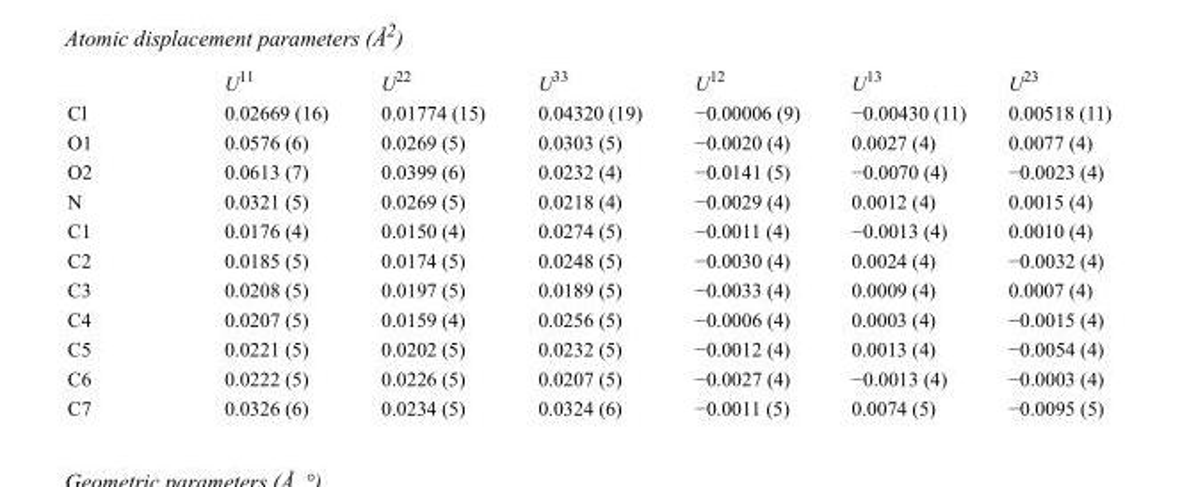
<table><thead><tr><td></td><td>U<sup>11</sup></td><td>U<sup>22</sup></td><td>U<sup>33</sup></td><td>U<sup>12</sup></td><td>U<sup>13</sup></td><td>U<sup>23</sup></td></tr></thead><tbody><tr><td>Cl</td><td>0.02669 (16)</td><td>0.01774 (15)</td><td>0.04320 (19)</td><td>−0.00006 (9)</td><td>−0.00430 (11)</td><td>0.00518 (11)</td></tr><tr><td>O1</td><td>0.0576 (6)</td><td>0.0269 (5)</td><td>0.0303 (5)</td><td>−0.0020 (4)</td><td>0.0027 (4)</td><td>0.0077 (4)</td></tr><tr><td>O2</td><td>0.0613 (7)</td><td>0.0399 (6)</td><td>0.0232 (4)</td><td>−0.0141 (5)</td><td>−0.0070 (4)</td><td>−0.0023 (4)</td></tr><tr><td>N</td><td>0.0321 (5)</td><td>0.0269 (5)</td><td>0.0218 (4)</td><td>−0.0029 (4)</td><td>0.0012 (4)</td><td>0.0015 (4)</td></tr><tr><td>C1</td><td>0.0176 (4)</td><td>0.0150 (4)</td><td>0.0274 (5)</td><td>−0.0011 (4)</td><td>−0.0013 (4)</td><td>0.0010 (4)</td></tr><tr><td>C2</td><td>0.0185 (5)</td><td>0.0174 (5)</td><td>0.0248 (5)</td><td>−0.0030 (4)</td><td>0.0024 (4)</td><td>−0.0032 (4)</td></tr><tr><td>C3</td><td>0.0208 (5)</td><td>0.0197 (5)</td><td>0.0189 (5)</td><td>−0.0033 (4)</td><td>0.0009 (4)</td><td>0.0007 (4)</td></tr><tr><td>C4</td><td>0.0207 (5)</td><td>0.0159 (4)</td><td>0.0256 (5)</td><td>−0.0006 (4)</td><td>0.0003 (4)</td><td>−0.0015 (4)</td></tr><tr><td>C5</td><td>0.0221 (5)</td><td>0.0202 (5)</td><td>0.0232 (5)</td><td>−0.0012 (4)</td><td>0.0013 (4)</td><td>−0.0054 (4)</td></tr><tr><td>C6</td><td>0.0222 (5)</td><td>0.0226 (5)</td><td>0.0207 (5)</td><td>−0.0027 (4)</td><td>−0.0013 (4)</td><td>−0.0003 (4)</td></tr><tr><td>C7</td><td>0.0326 (6)</td><td>0.0234 (5)</td><td>0.0324 (6)</td><td>−0.0011 (5)</td><td>0.0074 (5)</td><td>−0.0095 (5)</td></tr></tbody></table>